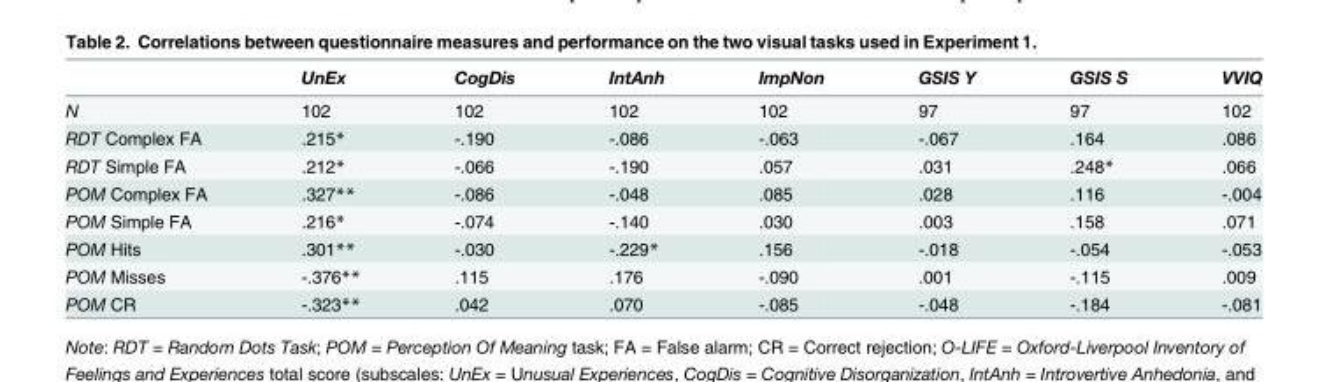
<table><thead><tr><td></td><td>UnEx</td><td>CogDis</td><td>IntAnh</td><td>ImpNon</td><td>GSIS Y</td><td>GSIS S</td><td>VVIQ</td></tr></thead><tbody><tr><td>N</td><td>102</td><td>102</td><td>102</td><td>102</td><td>97</td><td>97</td><td>102</td></tr><tr><td>RDT Complex FA</td><td>.215*</td><td>-.190</td><td>-.086</td><td>-.063</td><td>-.067</td><td>.164</td><td>.086</td></tr><tr><td>RDT Simple FA</td><td>.212*</td><td>-.066</td><td>-.190</td><td>.057</td><td>.031</td><td>.248*</td><td>.066</td></tr><tr><td>POM Complex FA</td><td>.327**</td><td>-.086</td><td>-.048</td><td>.085</td><td>.028</td><td>.116</td><td>-.004</td></tr><tr><td>POM Simple FA</td><td>.216*</td><td>-.074</td><td>-.140</td><td>.030</td><td>.003</td><td>.158</td><td>.071</td></tr><tr><td>POM Hits</td><td>.301**</td><td>-.030</td><td>-.229*</td><td>.156</td><td>-.018</td><td>-.054</td><td>-.053</td></tr><tr><td>POM Misses</td><td>-.376**</td><td>.115</td><td>.176</td><td>-.090</td><td>.001</td><td>-.115</td><td>.009</td></tr><tr><td>POM CR</td><td>-.323**</td><td>.042</td><td>.070</td><td>-.085</td><td>-.048</td><td>-.184</td><td>-.081</td></tr></tbody></table>